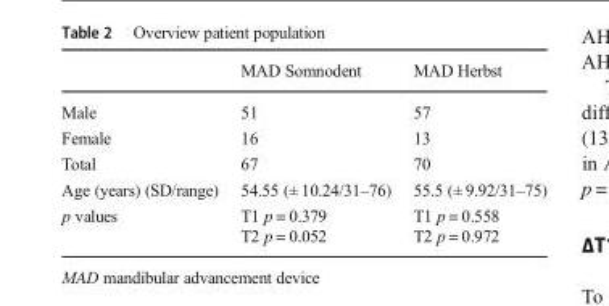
<table><thead><tr><td></td><td>MAD Somnodent</td><td>MAD Herbst</td></tr></thead><tbody><tr><td>Male</td><td>51</td><td>57</td></tr><tr><td>Female</td><td>16</td><td>13</td></tr><tr><td>Total</td><td>67</td><td>70</td></tr><tr><td>Age (years) (SD/range)</td><td>54.55 (± 10.24/31–76)</td><td>55.5 (± 9.92/31–75)</td></tr><tr><td>p values</td><td>T1 p = 0.379 T2 p = 0.052</td><td>T1 p = 0.558 T2 p = 0.972</td></tr></tbody></table>